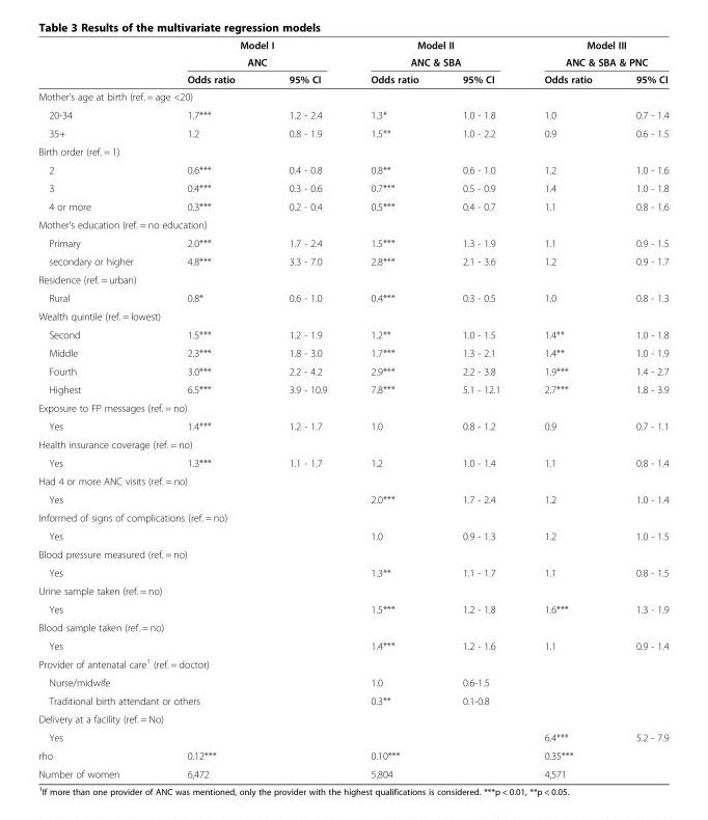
<table><thead><tr><td rowspan="3"></td><td rowspan="2" colspan="2">Model I ANC</td><td rowspan="2" colspan="2">Model II ANC &amp; SBA</td><td rowspan="2" colspan="2">Model III ANC &amp; SBA &amp; PNC</td></tr><tr></tr><tr><td>Odds ratio</td><td>95% CI</td><td>Odds ratio</td><td>95% CI</td><td>Odds ratio</td><td>95% CI</td></tr></thead><tbody><tr><td colspan="7">Mother’s age at birth (ref. = age &lt;20)</td></tr><tr><td>20-34</td><td>1.7***</td><td>1.2 - 2.4</td><td>1.3*</td><td>1.0 - 1.8</td><td>1.0</td><td>0.7 - 1.4</td></tr><tr><td>35+</td><td>1.2</td><td>0.8 - 1.9</td><td>1.5**</td><td>1.0 - 2.2</td><td>0.9</td><td>0.6 - 1.5</td></tr><tr><td colspan="7">Birth order (ref. = 1)</td></tr><tr><td>2</td><td>0.6***</td><td>0.4 - 0.8</td><td>0.8**</td><td>0.6 - 1.0</td><td>1.2</td><td>1.0 - 1.6</td></tr><tr><td>3</td><td>0.4***</td><td>0.3 - 0.6</td><td>0.7***</td><td>0.5 - 0.9</td><td>1.4</td><td>1.0 - 1.8</td></tr><tr><td>4 or more</td><td>0.3***</td><td>0.2 - 0.4</td><td>0.5***</td><td>0.4 - 0.7</td><td>1.1</td><td>0.8 - 1.6</td></tr><tr><td colspan="7">Mother’s education (ref. = no education)</td></tr><tr><td>Primary</td><td>2.0***</td><td>1.7 - 2.4</td><td>1.5***</td><td>1.3 - 1.9</td><td>1.1</td><td>0.9 - 1.5</td></tr><tr><td>secondary or higher</td><td>4.8***</td><td>3.3 - 7.0</td><td>2.8***</td><td>2.1 - 3.6</td><td>1.2</td><td>0.9 - 1.7</td></tr><tr><td colspan="7">Residence (ref. = urban)</td></tr><tr><td>Rural</td><td>0.8*</td><td>0.6 - 1.0</td><td>0.4***</td><td>0.3 - 0.5</td><td>1.0</td><td>0.8 - 1.3</td></tr><tr><td colspan="7">Wealth quintile (ref. = lowest)</td></tr><tr><td>Second</td><td>1.5***</td><td>1.2 - 1.9</td><td>1.2**</td><td>1.0 - 1.5</td><td>1.4**</td><td>1.0 - 1.8</td></tr><tr><td>Middle</td><td>2.3***</td><td>1.8 - 3.0</td><td>1.7***</td><td>1.3 - 2.1</td><td>1.4**</td><td>1.0 - 1.9</td></tr><tr><td>Fourth</td><td>3.0***</td><td>2.2 - 4.2</td><td>2.9***</td><td>2.2 - 3.8</td><td>1.9***</td><td>1.4 - 2.7</td></tr><tr><td>Highest</td><td>6.5***</td><td>3.9 - 10.9</td><td>7.8***</td><td>5.1 - 12.1</td><td>2.7***</td><td>1.8 - 3.9</td></tr><tr><td colspan="7">Exposure to FP messages (ref. = no)</td></tr><tr><td>Yes</td><td>1.4***</td><td>1.2 - 1.7</td><td>1.0</td><td>0.8 - 1.2</td><td>0.9</td><td>0.7 - 1.1</td></tr><tr><td colspan="7">Health insurance coverage (ref. = no)</td></tr><tr><td>Yes</td><td>1.3***</td><td>1.1 - 1.7</td><td>1.2</td><td>1.0 - 1.4</td><td>1.1</td><td>0.8 - 1.4</td></tr><tr><td colspan="7">Had 4 or more ANC visits (ref. = no)</td></tr><tr><td>Yes</td><td></td><td></td><td>2.0***</td><td>1.7 - 2.4</td><td>1.2</td><td>1.0 - 1.4</td></tr><tr><td colspan="7">Informed of signs of complications (ref. = no)</td></tr><tr><td>Yes</td><td></td><td></td><td>1.0</td><td>0.9 - 1.3</td><td>1.2</td><td>1.0 - 1.5</td></tr><tr><td colspan="7">Blood pressure measured (ref. = no)</td></tr><tr><td>Yes</td><td></td><td></td><td>1.3**</td><td>1.1 - 1.7</td><td>1.1</td><td>0.8 - 1.5</td></tr><tr><td colspan="7">Urine sample taken (ref. = no)</td></tr><tr><td>Yes</td><td></td><td></td><td>1.5***</td><td>1.2 - 1.8</td><td>1.6***</td><td>1.3 - 1.9</td></tr><tr><td colspan="7">Blood sample taken (ref. = no)</td></tr><tr><td>Yes</td><td></td><td></td><td>1.4***</td><td>1.2 - 1.6</td><td>1.1</td><td>0.9 - 1.4</td></tr><tr><td colspan="7">Provider of antenatal care<sup>1</sup> (ref. = doctor)</td></tr><tr><td colspan="2">Nurse/midwife</td><td></td><td>1.0</td><td>0.6-1.5</td><td></td><td></td></tr><tr><td colspan="2">Traditional birth attendant or others</td><td></td><td>0.3**</td><td>0.1-0.8</td><td></td><td></td></tr><tr><td colspan="7">Delivery at a facility (ref. = No)</td></tr><tr><td>Yes</td><td></td><td></td><td></td><td></td><td>6.4***</td><td>5.2 - 7.9</td></tr><tr><td>rho</td><td>0.12***</td><td></td><td>0.10***</td><td></td><td>0.35***</td><td></td></tr><tr><td>Number of women</td><td>6,472</td><td></td><td>5,804</td><td></td><td>4,571</td><td></td></tr></tbody></table>